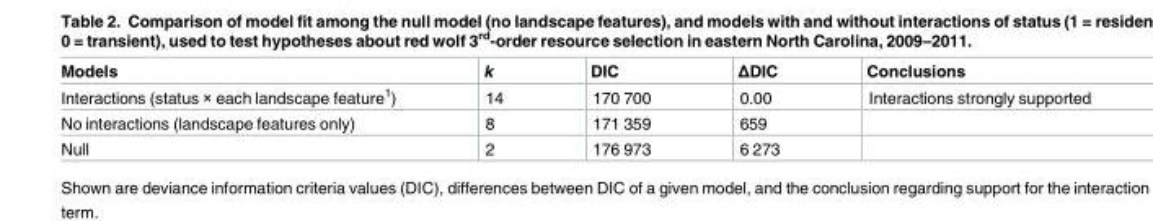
<table><thead><tr><td>Models</td><td>k</td><td>DIC</td><td>ΔDIC</td><td>Conclusions</td></tr></thead><tbody><tr><td>Interactions (status × each landscape feature<sup>1</sup>)</td><td>14</td><td>170 700</td><td>0.00</td><td>Interactions strongly supported</td></tr><tr><td>No interactions (landscape features only)</td><td>8</td><td>171 359</td><td>659</td><td></td></tr><tr><td>Null</td><td>2</td><td>176 973</td><td>6 273</td><td></td></tr></tbody></table>